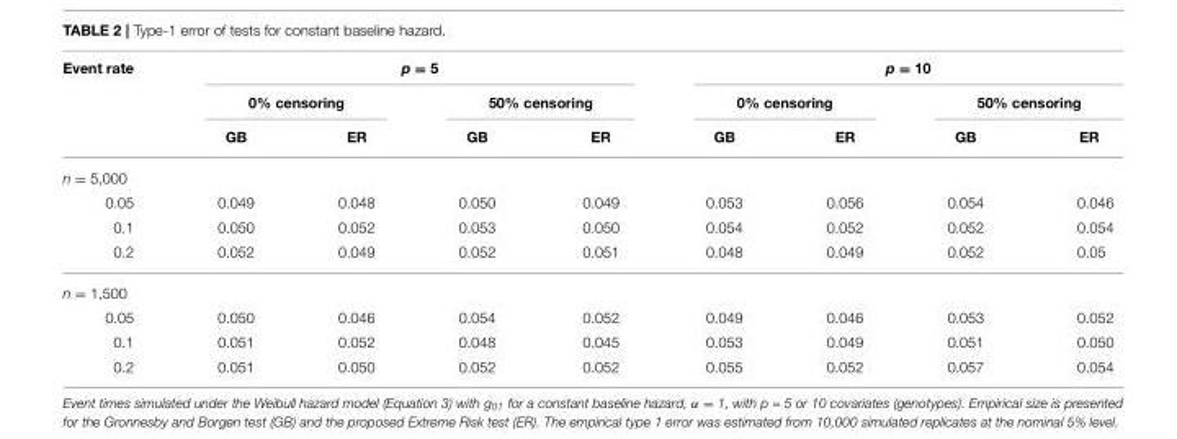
<table><thead><tr><td rowspan="3">Event rate</td><td colspan="4">p = 5</td><td colspan="4">p = 10</td></tr><tr><td colspan="2">0% censoring</td><td colspan="2">50% censoring</td><td colspan="2">0% censoring</td><td colspan="2">50% censoring</td></tr><tr><td>GB</td><td>ER</td><td>GB</td><td>ER</td><td>GB</td><td>ER</td><td>GB</td><td>ER</td></tr></thead><tbody><tr><td colspan="9">n = 5,000</td></tr><tr><td>0.05</td><td>0.049</td><td>0.048</td><td>0.050</td><td>0.049</td><td>0.053</td><td>0.056</td><td>0.054</td><td>0.046</td></tr><tr><td>0.1</td><td>0.050</td><td>0.052</td><td>0.053</td><td>0.050</td><td>0.054</td><td>0.052</td><td>0.052</td><td>0.054</td></tr><tr><td>0.2</td><td>0.052</td><td>0.049</td><td>0.052</td><td>0.051</td><td>0.048</td><td>0.049</td><td>0.052</td><td>0.05</td></tr><tr><td colspan="9">n = 1,500</td></tr><tr><td>0.05</td><td>0.050</td><td>0.046</td><td>0.054</td><td>0.052</td><td>0.049</td><td>0.046</td><td>0.053</td><td>0.052</td></tr><tr><td>0.1</td><td>0.051</td><td>0.052</td><td>0.048</td><td>0.045</td><td>0.053</td><td>0.049</td><td>0.051</td><td>0.050</td></tr><tr><td>0.2</td><td>0.051</td><td>0.050</td><td>0.052</td><td>0.052</td><td>0.055</td><td>0.052</td><td>0.057</td><td>0.054</td></tr></tbody></table>